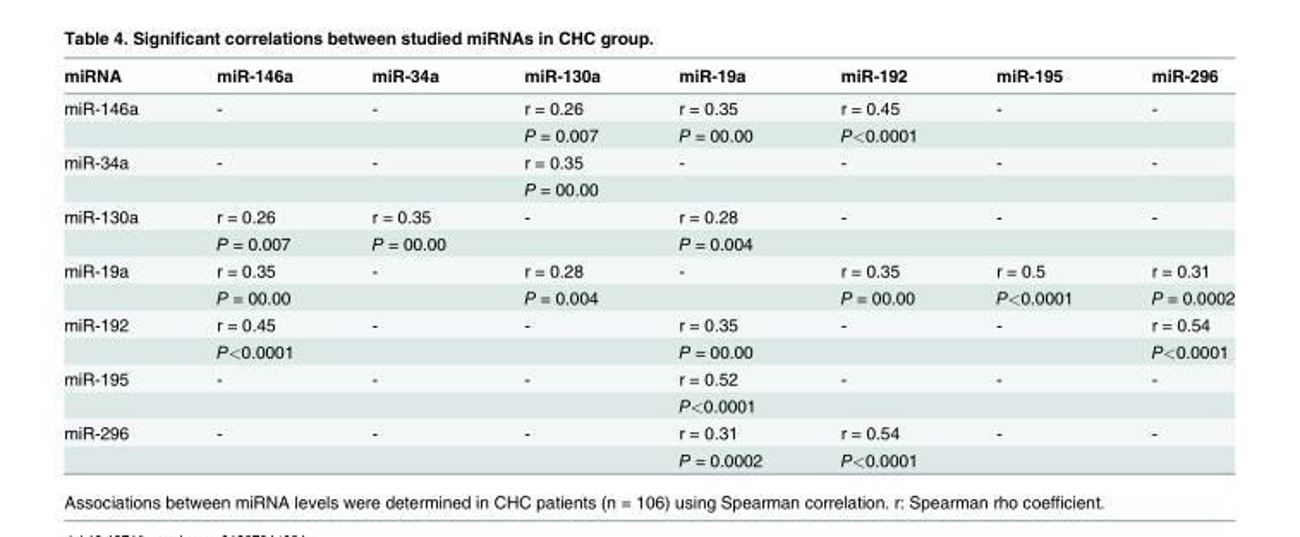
<table><thead><tr><td>miRNA</td><td>miR-146a</td><td>miR-34a</td><td>miR-130a</td><td>miR-19a</td><td>miR-192</td><td>miR-195</td><td>miR-296</td></tr></thead><tbody><tr><td rowspan="2">miR-146a</td><td>-</td><td>-</td><td>r = 0.26</td><td>r = 0.35</td><td>r = 0.45</td><td>-</td><td>-</td></tr><tr><td></td><td></td><td>P = 0.007</td><td>P = 00.00</td><td>P&lt;0.0001</td><td></td><td></td></tr><tr><td rowspan="2">miR-34a</td><td>-</td><td>-</td><td>r = 0.35</td><td>-</td><td>-</td><td>-</td><td>-</td></tr><tr><td></td><td></td><td>P = 00.00</td><td></td><td></td><td></td><td></td></tr><tr><td rowspan="2">miR-130a</td><td>r = 0.26</td><td>r = 0.35</td><td>-</td><td>r = 0.28</td><td>-</td><td>-</td><td>-</td></tr><tr><td>P = 0.007</td><td>P = 00.00</td><td></td><td>P = 0.004</td><td></td><td></td><td></td></tr><tr><td rowspan="2">miR-19a</td><td>r = 0.35</td><td>-</td><td>r = 0.28</td><td>-</td><td>r = 0.35</td><td>r = 0.5</td><td>r = 0.31</td></tr><tr><td>P = 00.00</td><td></td><td>P = 0.004</td><td></td><td>P = 00.00</td><td>P&lt;0.0001</td><td>P = 0.0002</td></tr><tr><td rowspan="2">miR-192</td><td>r = 0.45</td><td>-</td><td>-</td><td>r = 0.35</td><td>-</td><td>-</td><td>r = 0.54</td></tr><tr><td>P&lt;0.0001</td><td></td><td></td><td>P = 00.00</td><td></td><td></td><td>P&lt;0.0001</td></tr><tr><td rowspan="2">miR-195</td><td>-</td><td>-</td><td>-</td><td>r = 0.52</td><td>-</td><td>-</td><td>-</td></tr><tr><td></td><td></td><td></td><td>P&lt;0.0001</td><td></td><td></td><td></td></tr><tr><td rowspan="2">miR-296</td><td>-</td><td>-</td><td>-</td><td>r = 0.31</td><td>r = 0.54</td><td>-</td><td>-</td></tr><tr><td></td><td></td><td></td><td>P = 0.0002</td><td>P&lt;0.0001</td><td></td><td></td></tr></tbody></table>